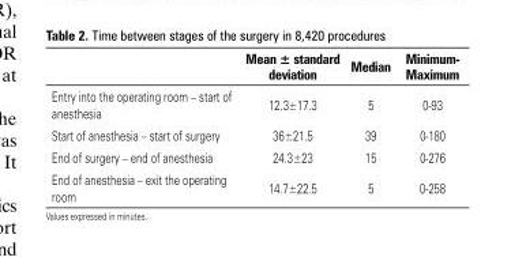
<table><thead><tr><td></td><td>mean ± standard deviation</td><td>median</td><td>minimum- maximum</td></tr></thead><tbody><tr><td>Entry into the operating room – start of anesthesia</td><td>12.3±17.3</td><td>5</td><td>0-93</td></tr><tr><td>Start of anesthesia – start of surgery</td><td>36±21.5</td><td>39</td><td>0-180</td></tr><tr><td>End of surgery – end of anesthesia</td><td>24.3±23</td><td>15</td><td>0-276</td></tr><tr><td>End of anesthesia – exit the operating room</td><td>14.7±22.5</td><td>5</td><td>0-258</td></tr></tbody></table>